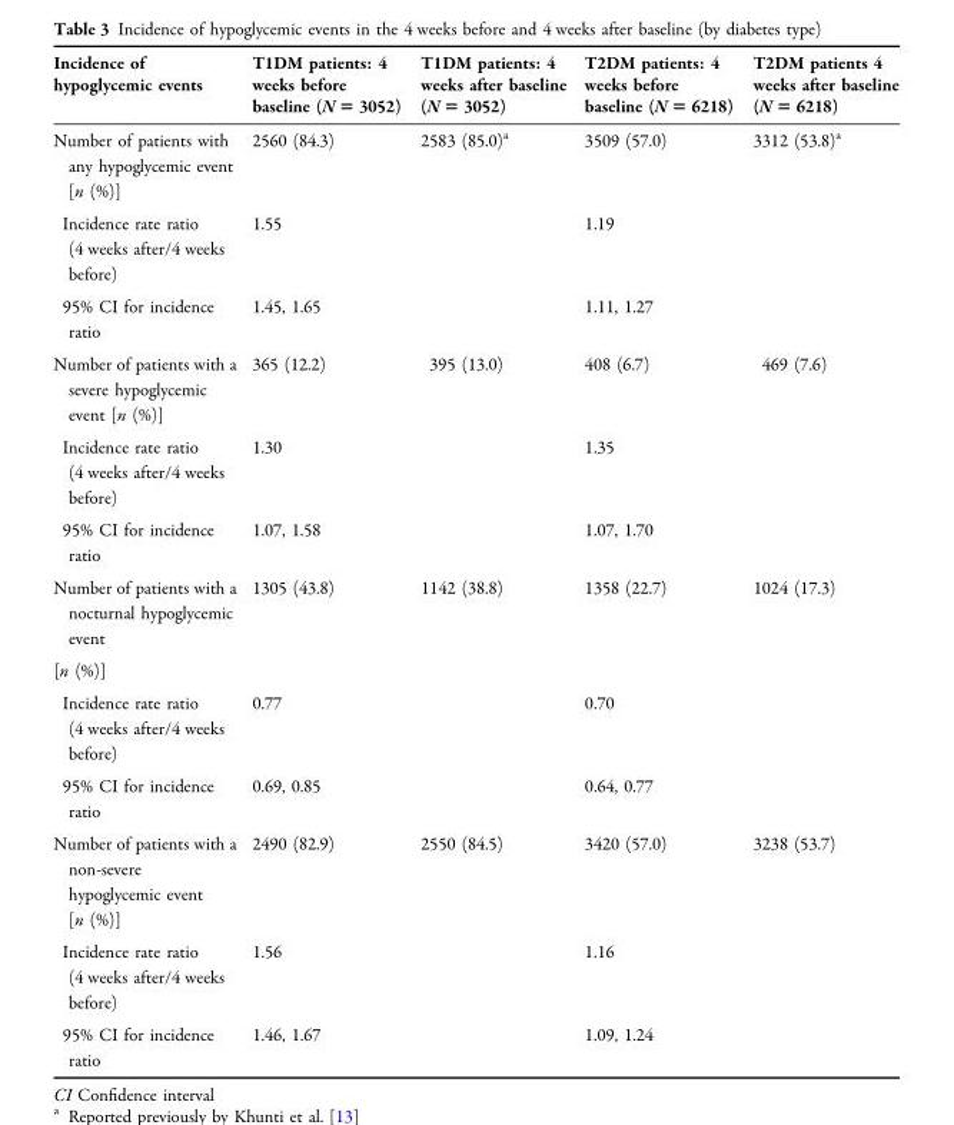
<table><thead><tr><td>Incidence of hypoglycemic events</td><td>T1DM patients: 4 weeks before baseline (N = 3052)</td><td>T1DM patients: 4 weeks after baseline (N = 3052)</td><td>T2DM patients: 4 weeks before baseline (N = 6218)</td><td>T2DM patients 4 weeks after baseline (N = 6218)</td></tr></thead><tbody><tr><td>Number of patients with any hypoglycemic event [n (%)]</td><td>2560 (84.3)</td><td>2583 (85.0)<sup>a</sup></td><td>3509 (57.0)</td><td>3312 (53.8)<sup>a</sup></td></tr><tr><td>Incidence rate ratio (4 weeks after/4 weeks before)</td><td>1.55</td><td></td><td>1.19</td><td></td></tr><tr><td>95% CI for incidence ratio</td><td>1.45, 1.65</td><td></td><td>1.11, 1.27</td><td></td></tr><tr><td>Number of patients with a severe hypoglycemic event [n (%)]</td><td>365 (12.2)</td><td>395 (13.0)</td><td>408 (6.7)</td><td>469 (7.6)</td></tr><tr><td>Incidence rate ratio (4 weeks after/4 weeks before)</td><td>1.30</td><td></td><td>1.35</td><td></td></tr><tr><td>95% CI for incidence ratio</td><td>1.07, 1.58</td><td></td><td>1.07, 1.70</td><td></td></tr><tr><td>Number of patients with a nocturnal hypoglycemic event [n (%)]</td><td>1305 (43.8)</td><td>1142 (38.8)</td><td>1358 (22.7)</td><td>1024 (17.3)</td></tr><tr><td>Incidence rate ratio (4 weeks after/4 weeks before)</td><td>0.77</td><td></td><td>0.70</td><td></td></tr><tr><td>95% CI for incidence ratio</td><td>0.69, 0.85</td><td></td><td>0.64, 0.77</td><td></td></tr><tr><td>Number of patients with a non-severe hypoglycemic event [n (%)]</td><td>2490 (82.9)</td><td>2550 (84.5)</td><td>3420 (57.0)</td><td>3238 (53.7)</td></tr><tr><td>Incidence rate ratio (4 weeks after/4 weeks before)</td><td>1.56</td><td></td><td>1.16</td><td></td></tr><tr><td>95% CI for incidence ratio</td><td>1.46, 1.67</td><td></td><td>1.09, 1.24</td><td></td></tr></tbody></table>